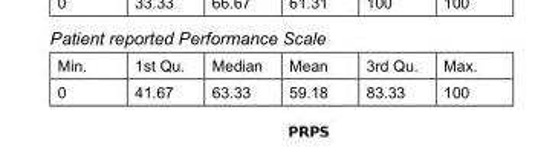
<table><tbody><tr><td>Min.</td><td>1st Qu.</td><td>Median</td><td>Mean</td><td>3rd Qu.</td><td>Max.</td></tr><tr><td>0</td><td>41.67</td><td>63.33</td><td>59.18</td><td>83.33</td><td>100</td></tr></tbody></table>